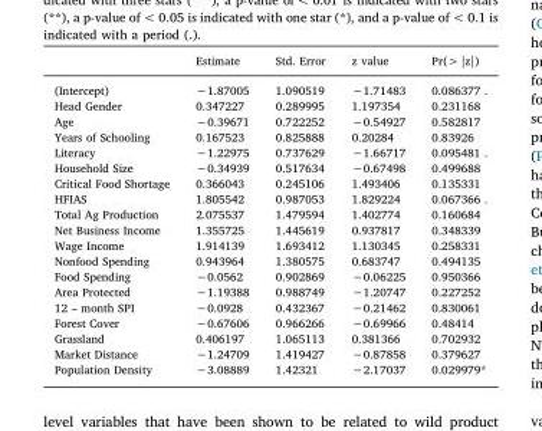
<table><thead><tr><td></td><td>Estimate</td><td>Std. Error</td><td>z value</td><td>Pr(&gt; |z|)</td></tr></thead><tbody><tr><td>(Intercept)</td><td>−1.87005</td><td>1.090519</td><td>−1.71483</td><td>0.086377 .</td></tr><tr><td>Head Gender</td><td>0.347227</td><td>0.289995</td><td>1.197354</td><td>0.231168</td></tr><tr><td>Age</td><td>−0.39671</td><td>0.722252</td><td>−0.54927</td><td>0.582817</td></tr><tr><td>Years of Schooling</td><td>0.167523</td><td>0.825888</td><td>0.20284</td><td>0.83926</td></tr><tr><td>Literacy</td><td>−1.22975</td><td>0.737629</td><td>−1.66717</td><td>0.095481 .</td></tr><tr><td>Household Size</td><td>−0.34939</td><td>0.517634</td><td>−0.67498</td><td>0.499688</td></tr><tr><td>Critical Food Shortage</td><td>0.366043</td><td>0.245106</td><td>1.493406</td><td>0.135331</td></tr><tr><td>HFIAS</td><td>1.805542</td><td>0.987053</td><td>1.829224</td><td>0.067366 .</td></tr><tr><td>Total Ag Production</td><td>2.075537</td><td>1.479594</td><td>1.402774</td><td>0.160684</td></tr><tr><td>Net Business Income</td><td>1.355725</td><td>1.445619</td><td>0.937817</td><td>0.348339</td></tr><tr><td>Wage Income</td><td>1.914139</td><td>1.693412</td><td>1.130345</td><td>0.258331</td></tr><tr><td>Nonfood Spending</td><td>0.943964</td><td>1.380575</td><td>0.683747</td><td>0.494135</td></tr><tr><td>Food Spending</td><td>−0.0562</td><td>0.902869</td><td>−0.06225</td><td>0.950366</td></tr><tr><td>Area Protected</td><td>−1.19388</td><td>0.988749</td><td>−1.20747</td><td>0.227252</td></tr><tr><td>12 – month SPI</td><td>−0.0928</td><td>0.432367</td><td>−0.21462</td><td>0.830061</td></tr><tr><td>Forest Cover</td><td>−0.67606</td><td>0.966266</td><td>−0.69966</td><td>0.48414</td></tr><tr><td>Grassland</td><td>0.406197</td><td>1.065113</td><td>0.381366</td><td>0.702932</td></tr><tr><td>Market Distance</td><td>−1.24709</td><td>1.419427</td><td>−0.87858</td><td>0.379627</td></tr><tr><td>Population Density</td><td>−3.08889</td><td>1.42321</td><td>−2.17037</td><td>0.029979*</td></tr></tbody></table>